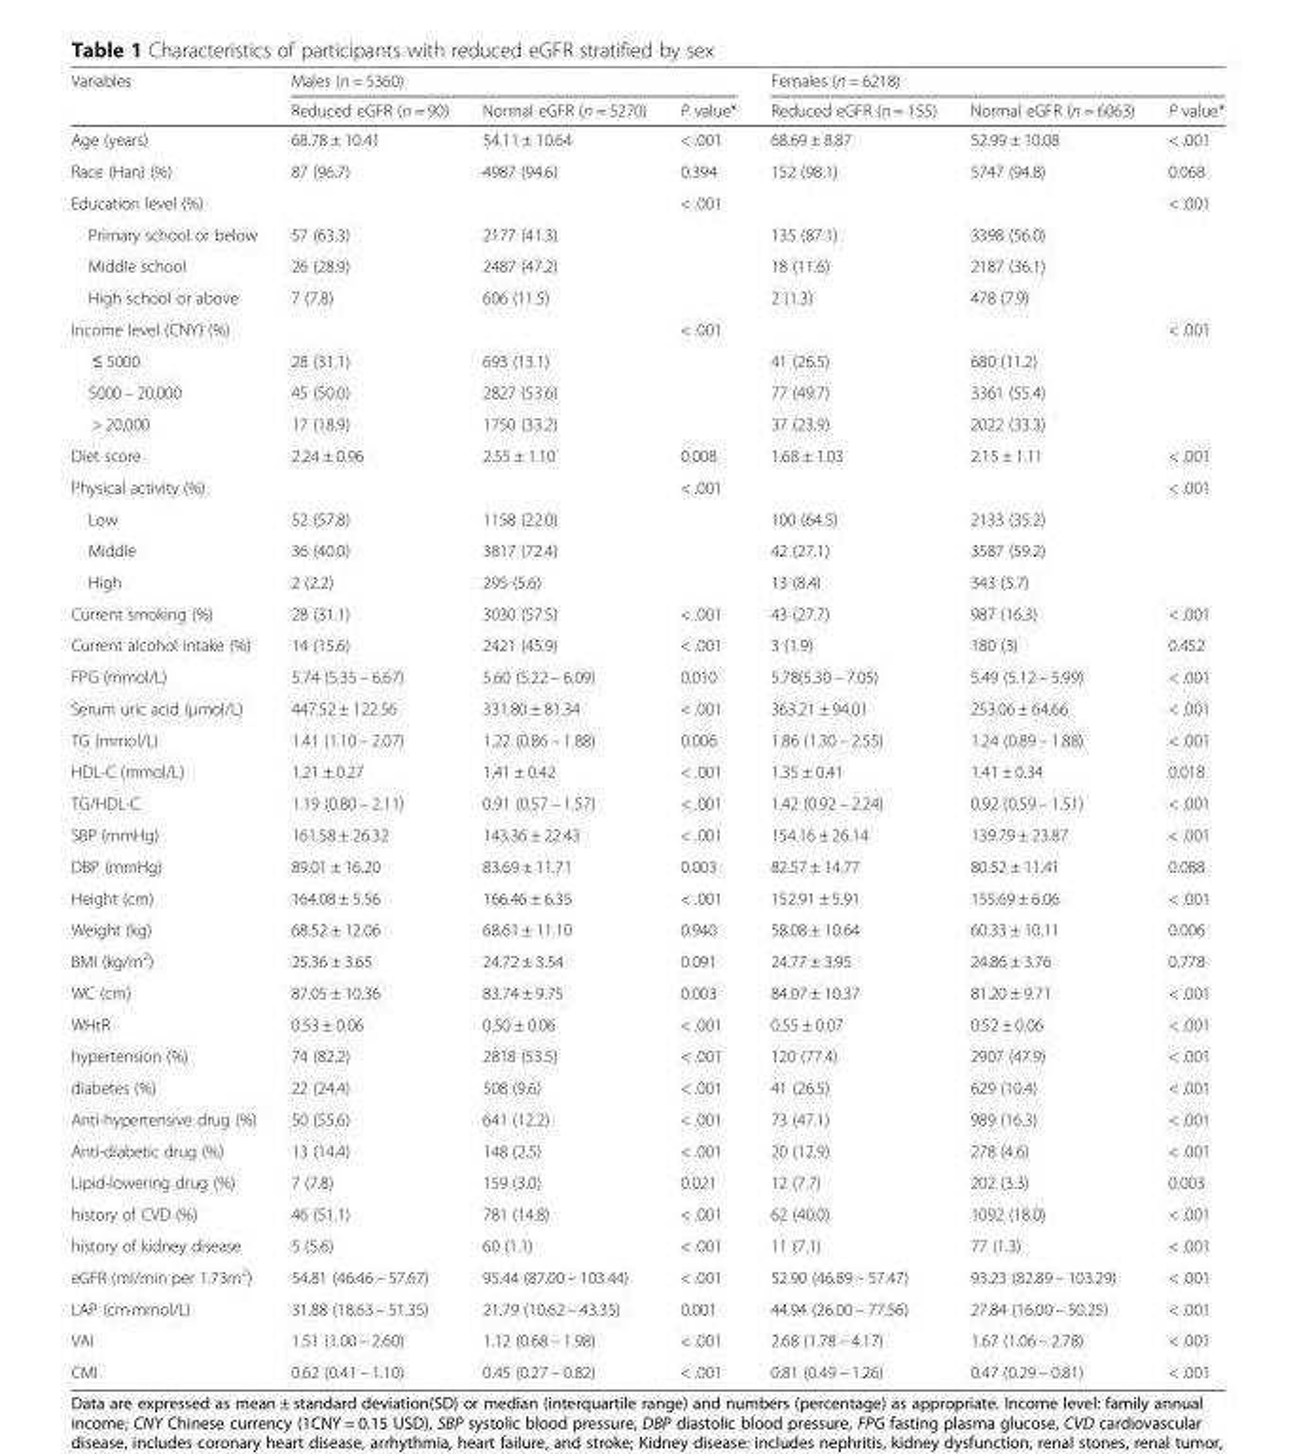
<table><thead><tr><td rowspan="2">Variables</td><td colspan="3">Males (n = 5360)</td><td colspan="3">Females (n = 6218)</td></tr><tr><td>Reduced eGFR (n = 90)</td><td>Normal eGFR (n = 5270)</td><td>P value*</td><td>Reduced eGFR (n = 155)</td><td>Normal eGFR (n = 6063)</td><td>P value*</td></tr></thead><tbody><tr><td>Age (years)</td><td>68.78 ± 10.41</td><td>54.11 ± 10.64</td><td>&lt; .001</td><td>68.69 ± 8.87</td><td>52.99 ± 10.08</td><td>&lt; .001</td></tr><tr><td>Race (Han) (%)</td><td>87 (96.7)</td><td>4987 (94.6)</td><td>0.394</td><td>152 (98.1)</td><td>5747 (94.8)</td><td>0.068</td></tr><tr><td>Education level (%)</td><td></td><td></td><td>&lt; .001</td><td></td><td></td><td>&lt; .001</td></tr><tr><td>Primary school or below</td><td>57 (63.3)</td><td>2177 (41.3)</td><td></td><td>135 (87.1)</td><td>3398 (56.0)</td><td></td></tr><tr><td>Middle school</td><td>26 (28.9)</td><td>2487 (47.2)</td><td></td><td>18 (11.6)</td><td>2187 (36.1)</td><td></td></tr><tr><td>High school or above</td><td>7 (7.8)</td><td>606 (11.5)</td><td></td><td>2 (1.3)</td><td>478 (7.9)</td><td></td></tr><tr><td>Income level (CNY) (%)</td><td></td><td></td><td>&lt; .001</td><td></td><td></td><td>&lt; .001</td></tr><tr><td>≤ 5000</td><td>28 (31.1)</td><td>693 (13.1)</td><td></td><td>41 (26.5)</td><td>680 (11.2)</td><td></td></tr><tr><td>5000 – 20,000</td><td>45 (50.0)</td><td>2827 (53.6)</td><td></td><td>77 (49.7)</td><td>3361 (55.4)</td><td></td></tr><tr><td>&gt; 20,000</td><td>17 (18.9)</td><td>1750 (33.2)</td><td></td><td>37 (23.9)</td><td>2022 (33.3)</td><td></td></tr><tr><td>Diet score</td><td>2.24 ± 0.96</td><td>2.55 ± 1.10</td><td>0.008</td><td>1.68 ± 1.03</td><td>2.15 ± 1.11</td><td>&lt; .001</td></tr><tr><td>Physical activity (%)</td><td></td><td></td><td>&lt; .001</td><td></td><td></td><td>&lt; .001</td></tr><tr><td>Low</td><td>52 (57.8)</td><td>1158 (22.0)</td><td></td><td>100 (64.5)</td><td>2133 (35.2)</td><td></td></tr><tr><td>Middle</td><td>36 (40.0)</td><td>3817 (72.4)</td><td></td><td>42 (27.1)</td><td>3587 (59.2)</td><td></td></tr><tr><td>High</td><td>2 (2.2)</td><td>295 (5.6)</td><td></td><td>13 (8.4)</td><td>343 (5.7)</td><td></td></tr><tr><td>Current smoking (%)</td><td>28 (31.1)</td><td>3030 (57.5)</td><td>&lt; .001</td><td>43 (27.7)</td><td>987 (16.3)</td><td>&lt; .001</td></tr><tr><td>Current alcohol intake (%)</td><td>14 (15.6)</td><td>2421 (45.9)</td><td>&lt; .001</td><td>3 (1.9)</td><td>180 (3)</td><td>0.452</td></tr><tr><td>FPG (mmol/L)</td><td>5.74 (5.35 – 6.67)</td><td>5.60 (5.22 – 6.09)</td><td>0.010</td><td>5.78(5.30 – 7.05)</td><td>5.49 (5.12 – 5.99)</td><td>&lt; .001</td></tr><tr><td>Serum uric acid (μmol/L)</td><td>447.52 ± 122.56</td><td>331.80 ± 81.34</td><td>&lt; .001</td><td>363.21 ± 94.01</td><td>253.06 ± 64.66</td><td>&lt; .001</td></tr><tr><td>TG (mmol/L)</td><td>1.41 (1.10 – 2.07)</td><td>1.22 (0.86 – 1.88)</td><td>0.006</td><td>1.86 (1.30 – 2.55)</td><td>1.24 (0.89 – 1.88)</td><td>&lt; .001</td></tr><tr><td>HDL-C (mmol/L)</td><td>1.21 ± 0.27</td><td>1.41 ± 0.42</td><td>&lt; .001</td><td>1.35 ± 0.41</td><td>1.41 ± 0.34</td><td>0.018</td></tr><tr><td>TG/HDL-C</td><td>1.19 (0.80 – 2.11)</td><td>0.91 (0.57 – 1.57)</td><td>&lt; .001</td><td>1.42 (0.92 – 2.24)</td><td>0.92 (0.59 – 1.51)</td><td>&lt; .001</td></tr><tr><td>SBP (mmHg)</td><td>161.58 ± 26.32</td><td>143.36 ± 22.43</td><td>&lt; .001</td><td>154.16 ± 26.14</td><td>139.79 ± 23.87</td><td>&lt; .001</td></tr><tr><td>DBP (mmHg)</td><td>89.01 ± 16.20</td><td>83.69 ± 11.71</td><td>0.003</td><td>82.57 ± 14.77</td><td>80.52 ± 11.41</td><td>0.088</td></tr><tr><td>Height (cm)</td><td>164.08 ± 5.56</td><td>166.46 ± 6.35</td><td>&lt; .001</td><td>152.91 ± 5.91</td><td>155.69 ± 6.06</td><td>&lt; .001</td></tr><tr><td>Weight (kg)</td><td>68.52 ± 12.06</td><td>68.61 ± 11.10</td><td>0.940</td><td>58.08 ± 10.64</td><td>60.33 ± 10.11</td><td>0.006</td></tr><tr><td>BMI (kg/m<sup>2</sup>)</td><td>25.36 ± 3.65</td><td>24.72 ± 3.54</td><td>0.091</td><td>24.77 ± 3.95</td><td>24.86 ± 3.76</td><td>0.778</td></tr><tr><td>WC (cm)</td><td>87.05 ± 10.36</td><td>83.74 ± 9.75</td><td>0.003</td><td>84.07 ± 10.37</td><td>81.20 ± 9.71</td><td>&lt; .001</td></tr><tr><td>WHtR</td><td>0.53 ± 0.06</td><td>0.50 ± 0.06</td><td>&lt; .001</td><td>0.55 ± 0.07</td><td>0.52 ± 0.06</td><td>&lt; .001</td></tr><tr><td>hypertension (%)</td><td>74 (82.2)</td><td>2818 (53.5)</td><td>&lt; .001</td><td>120 (77.4)</td><td>2907 (47.9)</td><td>&lt; .001</td></tr><tr><td>diabetes (%)</td><td>22 (24.4)</td><td>508 (9.6)</td><td>&lt; .001</td><td>41 (26.5)</td><td>629 (10.4)</td><td>&lt; .001</td></tr><tr><td>Anti-hypertensive drug (%)</td><td>50 (55.6)</td><td>641 (12.2)</td><td>&lt; .001</td><td>73 (47.1)</td><td>989 (16.3)</td><td>&lt; .001</td></tr><tr><td>Anti-diabetic drug (%)</td><td>13 (14.4)</td><td>148 (2.5)</td><td>&lt; .001</td><td>20 (12.9)</td><td>278 (4.6)</td><td>&lt; .001</td></tr><tr><td>Lipid-lowering drug (%)</td><td>7 (7.8)</td><td>159 (3.0)</td><td>0.021</td><td>12 (7.7)</td><td>202 (3.3)</td><td>0.003</td></tr><tr><td>history of CVD (%)</td><td>46 (51.1)</td><td>781 (14.8)</td><td>&lt; .001</td><td>62 (40.0)</td><td>1092 (18.0)</td><td>&lt; .001</td></tr><tr><td>history of kidney disease</td><td>5 (5.6)</td><td>60 (1.1)</td><td>&lt; .001</td><td>11 (7.1)</td><td>77 (1.3)</td><td>&lt; .001</td></tr><tr><td>eGFR (ml/min per 1.73m<sup>2</sup>)</td><td>54.81 (46.46 – 57.67)</td><td>95.44 (87.00 – 103.44)</td><td>&lt; .001</td><td>52.90 (46.89 – 57.47)</td><td>93.23 (82.89 – 103.29)</td><td>&lt; .001</td></tr><tr><td>LAP (cm·mmol/L)</td><td>31.88 (18.63 – 51.35)</td><td>21.79 (10.62 – 43.35)</td><td>0.001</td><td>44.94 (26.00 – 77.56)</td><td>27.84 (16.00 – 50.25)</td><td>&lt; .001</td></tr><tr><td>VAI</td><td>1.51 (1.00 – 2.60)</td><td>1.12 (0.68 – 1.98)</td><td>&lt; .001</td><td>2.68 (1.78 – 4.17)</td><td>1.67 (1.06 – 2.78)</td><td>&lt; .001</td></tr><tr><td>CMI</td><td>0.62 (0.41 – 1.10)</td><td>0.45 (0.27 – 0.82)</td><td>&lt; .001</td><td>0.81 (0.49 – 1.26)</td><td>0.47 (0.29 – 0.81)</td><td>&lt; .001</td></tr></tbody></table>